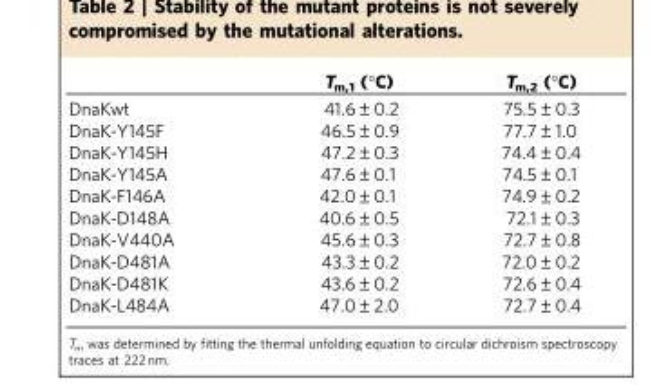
<table><thead><tr><td></td><td>T<sub>m,1</sub> (°C)</td><td>T<sub>m,2</sub> (°C)</td></tr></thead><tbody><tr><td>DnaKwt</td><td>41.6±0.2</td><td>75.5±0.3</td></tr><tr><td>DnaK-Y145F</td><td>46.5±0.9</td><td>77.7±1.0</td></tr><tr><td>DnaK-Y145H</td><td>47.2±0.3</td><td>74.4±0.4</td></tr><tr><td>DnaK-Y145A</td><td>47.6±0.1</td><td>74.5±0.1</td></tr><tr><td>DnaK-F146A</td><td>42.0±0.1</td><td>74.9±0.2</td></tr><tr><td>DnaK-D148A</td><td>40.6±0.5</td><td>72.1±0.3</td></tr><tr><td>DnaK-V440A</td><td>45.6±0.3</td><td>72.7±0.8</td></tr><tr><td>DnaK-D481A</td><td>43.3±0.2</td><td>72.0±0.2</td></tr><tr><td>DnaK-D481K</td><td>43.6±0.2</td><td>72.6±0.4</td></tr><tr><td>DnaK-L484A</td><td>47.0±2.0</td><td>72.7±0.4</td></tr></tbody></table>